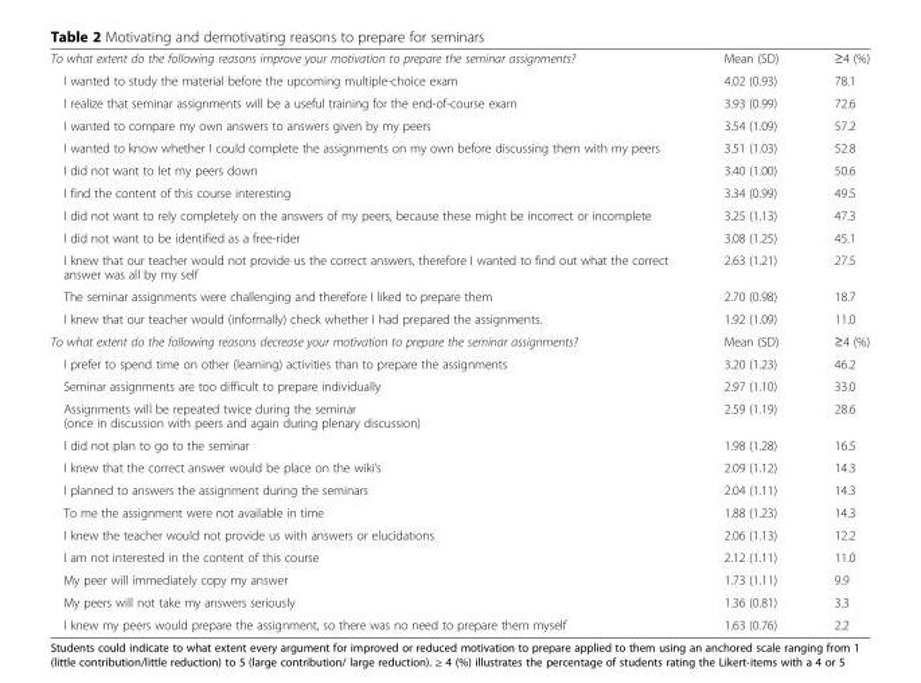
<table><tbody><tr><td>To what extent do the following reasons improve your motivation to prepare the seminar assignments?</td><td>Mean (SD)</td><td>≥4 (%)</td></tr><tr><td>I wanted to study the material before the upcoming multiple-choice exam</td><td>4.02 (0.93)</td><td>78.1</td></tr><tr><td>I realize that seminar assignments will be a useful training for the end-of-course exam</td><td>3.93 (0.99)</td><td>72.6</td></tr><tr><td>I wanted to compare my own answers to answers given by my peers</td><td>3.54 (1.09)</td><td>57.2</td></tr><tr><td>I wanted to know whether I could complete the assignments on my own before discussing them with my peers</td><td>3.51 (1.03)</td><td>52.8</td></tr><tr><td>I did not want to let my peers down</td><td>3.40 (1.00)</td><td>50.6</td></tr><tr><td>I find the content of this course interesting</td><td>3.34 (0.99)</td><td>49.5</td></tr><tr><td>I did not want to rely completely on the answers of my peers, because these might be incorrect or incomplete</td><td>3.25 (1.13)</td><td>47.3</td></tr><tr><td>I did not want to be identified as a free-rider</td><td>3.08 (1.25)</td><td>45.1</td></tr><tr><td>I knew that our teacher would not provide us the correct answers, therefore I wanted to find out what the correct answer was all by my self</td><td>2.63 (1.21)</td><td>27.5</td></tr><tr><td>The seminar assignments were challenging and therefore I liked to prepare them</td><td>2.70 (0.98)</td><td>18.7</td></tr><tr><td>I knew that our teacher would (informally) check whether I had prepared the assignments.</td><td>1.92 (1.09)</td><td>11.0</td></tr><tr><td>To what extent do the following reasons decrease your motivation to prepare the seminar assignments?</td><td>Mean (SD)</td><td>≥4 (%)</td></tr><tr><td>I prefer to spend time on other (learning) activities than to prepare the assignments</td><td>3.20 (1.23)</td><td>46.2</td></tr><tr><td>Seminar assignments are too difficult to prepare individually</td><td>2.97 (1.10)</td><td>33.0</td></tr><tr><td>Assignments will be repeated twice during the seminar (once in discussion with peers and again during plenary discussion)</td><td>2.59 (1.19)</td><td>28.6</td></tr><tr><td>I did not plan to go to the seminar</td><td>1.98 (1.28)</td><td>16.5</td></tr><tr><td>I knew that the correct answer would be place on the wiki’s</td><td>2.09 (1.12)</td><td>14.3</td></tr><tr><td>I planned to answers the assignment during the seminars</td><td>2.04 (1.11)</td><td>14.3</td></tr><tr><td>To me the assignment were not available in time</td><td>1.88 (1.23)</td><td>14.3</td></tr><tr><td>I knew the teacher would not provide us with answers or elucidations</td><td>2.06 (1.13)</td><td>12.2</td></tr><tr><td>I am not interested in the content of this course</td><td>2.12 (1.11)</td><td>11.0</td></tr><tr><td>My peer will immediately copy my answer</td><td>1.73 (1.11)</td><td>9.9</td></tr><tr><td>My peers will not take my answers seriously</td><td>1.36 (0.81)</td><td>3.3</td></tr><tr><td>I knew my peers would prepare the assignment, so there was no need to prepare them myself</td><td>1.63 (0.76)</td><td>2.2</td></tr></tbody></table>